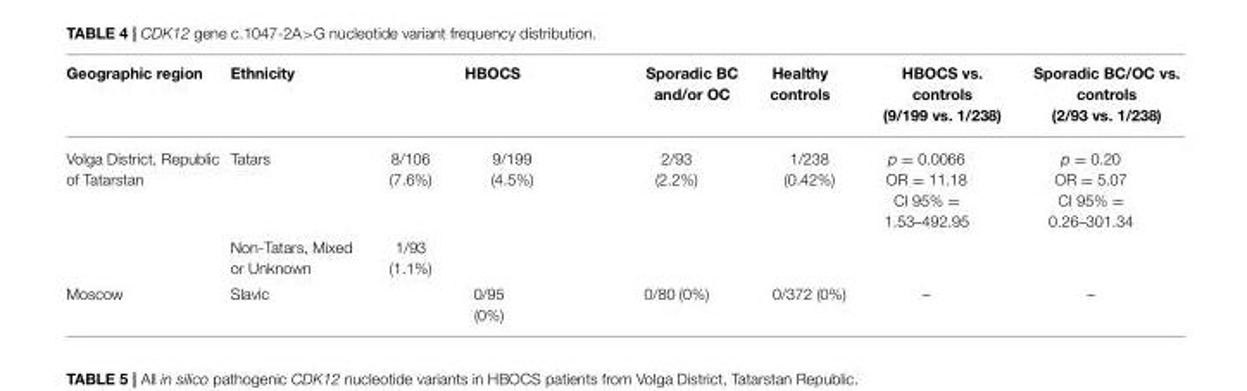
<table><thead><tr><td rowspan="2">Geographic region Volga District, Republic of Tatarstan</td><td rowspan="2">Ethnicity Tatars</td><td colspan="2">HBOCS</td><td rowspan="2">Sporadic BC and/or OC 2/93 (2.2%)</td><td rowspan="2">Healthy controls 1/238 (0.42%)</td><td rowspan="2">HBOCS vs. controls (9/199 vs. 1/238) p = 0.0066 OR = 11.18 CI 95% = 1.53–492.95</td><td rowspan="2">Sporadic BC/OC vs. controls (2/93 vs. 1/238) p = 0.20 OR = 5.07 CI 95% = 0.26–301.34</td></tr><tr><td>8/106 (7.6%)</td><td>9/199 (4.5%)</td></tr></thead><tbody><tr><td></td><td>Non-Tatars, Mixed or Unknown</td><td>1/93 (1.1%)</td><td></td><td></td><td></td><td></td><td></td></tr><tr><td>Moscow</td><td>Slavic</td><td colspan="2">0/95 (0%)</td><td>0/80 (0%)</td><td>0/372 (0%)</td><td>–</td><td>–</td></tr></tbody></table>